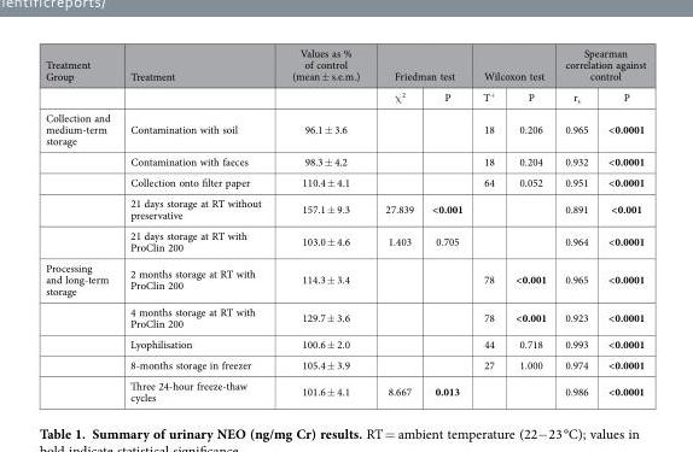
<table><thead><tr><td rowspan="2">Treatment Group</td><td rowspan="2">Treatment</td><td rowspan="2">Values as % of control (mean ± s.e.m.)</td><td colspan="2">Friedman test</td><td colspan="2">Wilcoxon test</td><td colspan="2">Spearman correlation against control</td></tr><tr><td>χ <sup>2</sup></td><td>P</td><td>T<sup>+</sup></td><td>P</td><td>r<sub>s</sub></td><td>P</td></tr></thead><tbody><tr><td rowspan="5">Collection and medium-term storage</td><td>Contamination with soil</td><td>96.1 ± 3.6</td><td></td><td></td><td>18</td><td>0.206</td><td>0.965</td><td>&lt; 0.0001</td></tr><tr><td>Contamination with faeces</td><td>98.3 ± 4.2</td><td></td><td></td><td>18</td><td>0.204</td><td>0.932</td><td>&lt; 0.0001</td></tr><tr><td>Collection onto filter paper</td><td>110.4 ± 4.1</td><td></td><td></td><td>64</td><td>0.052</td><td>0.951</td><td>&lt; 0.0001</td></tr><tr><td>21 days storage at RT without preservative</td><td>157.1 ± 9.3</td><td>27.839</td><td>&lt; 0.001</td><td></td><td></td><td>0.891</td><td>&lt; 0.001</td></tr><tr><td>21 days storage at RT with ProClin 200</td><td>103.0 ± 4.6</td><td>1.403</td><td>0.705</td><td></td><td></td><td>0.964</td><td>&lt; 0.0001</td></tr><tr><td rowspan="5">Processing and long-term storage</td><td>2 months storage at RT with ProClin 200</td><td>114.3 ± 3.4</td><td></td><td></td><td>78</td><td>&lt; 0.001</td><td>0.965</td><td>&lt; 0.0001</td></tr><tr><td>4 months storage at RT with ProClin 200</td><td>129.7 ± 3.6</td><td></td><td></td><td>78</td><td>&lt; 0.001</td><td>0.923</td><td>&lt; 0.0001</td></tr><tr><td>Lyophilisation</td><td>100.6 ± 2.0</td><td></td><td></td><td>44</td><td>0.718</td><td>0.993</td><td>&lt; 0.0001</td></tr><tr><td>8-months storage in freezer</td><td>105.4 ± 3.9</td><td></td><td></td><td>27</td><td>1.000</td><td>0.974</td><td>&lt; 0.0001</td></tr><tr><td>Three 24-hour freeze-thaw cycles</td><td>101.6 ± 4.1</td><td>8.667</td><td>0.013</td><td></td><td></td><td>0.986</td><td>&lt; 0.0001</td></tr></tbody></table>